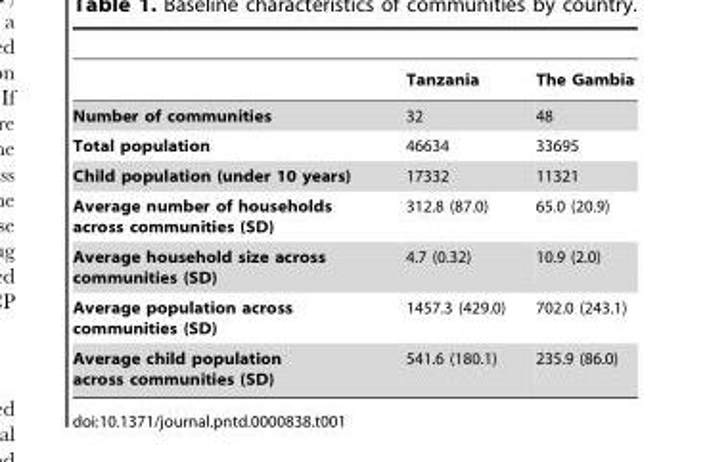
<table><thead><tr><td></td><td>Tanzania</td><td>The Gambia</td></tr></thead><tbody><tr><td>Number of communities</td><td>32</td><td>48</td></tr><tr><td>Total population</td><td>46634</td><td>33695</td></tr><tr><td>Child population (under 10 years)</td><td>17332</td><td>11321</td></tr><tr><td>Average number of households across communities (SD)</td><td>312.8 (87.0)</td><td>65.0 (20.9)</td></tr><tr><td>Average household size across communities (SD)</td><td>4.7 (0.32)</td><td>10.9 (2.0)</td></tr><tr><td>Average population across communities (SD)</td><td>1457.3 (429.0)</td><td>702.0 (243.1)</td></tr><tr><td>Average child population across communities (SD)</td><td>541.6 (180.1)</td><td>235.9 (86.0)</td></tr></tbody></table>